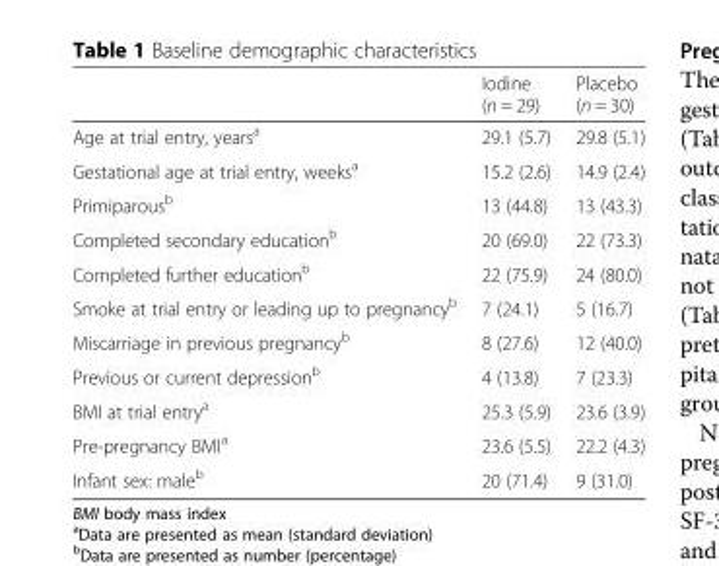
<table><thead><tr><td></td><td>Iodine (n = 29)</td><td>Placebo (n = 30)</td></tr></thead><tbody><tr><td>Age at trial entry, years<sup>a</sup></td><td>29.1 (5.7)</td><td>29.8 (5.1)</td></tr><tr><td>Gestational age at trial entry, weeks<sup>a</sup></td><td>15.2 (2.6)</td><td>14.9 (2.4)</td></tr><tr><td>Primiparous<sup>b</sup></td><td>13 (44.8)</td><td>13 (43.3)</td></tr><tr><td>Completed secondary education<sup>b</sup></td><td>20 (69.0)</td><td>22 (73.3)</td></tr><tr><td>Completed further education<sup>b</sup></td><td>22 (75.9)</td><td>24 (80.0)</td></tr><tr><td>Smoke at trial entry or leading up to pregnancy<sup>b</sup></td><td>7 (24.1)</td><td>5 (16.7)</td></tr><tr><td>Miscarriage in previous pregnancy<sup>b</sup></td><td>8 (27.6)</td><td>12 (40.0)</td></tr><tr><td>Previous or current depression<sup>b</sup></td><td>4 (13.8)</td><td>7 (23.3)</td></tr><tr><td>BMI at trial entry<sup>a</sup></td><td>25.3 (5.9)</td><td>23.6 (3.9)</td></tr><tr><td>Pre-pregnancy BMI<sup>a</sup></td><td>23.6 (5.5)</td><td>22.2 (4.3)</td></tr><tr><td>Infant sex: male<sup>b</sup></td><td>20 (71.4)</td><td>9 (31.0)</td></tr></tbody></table>